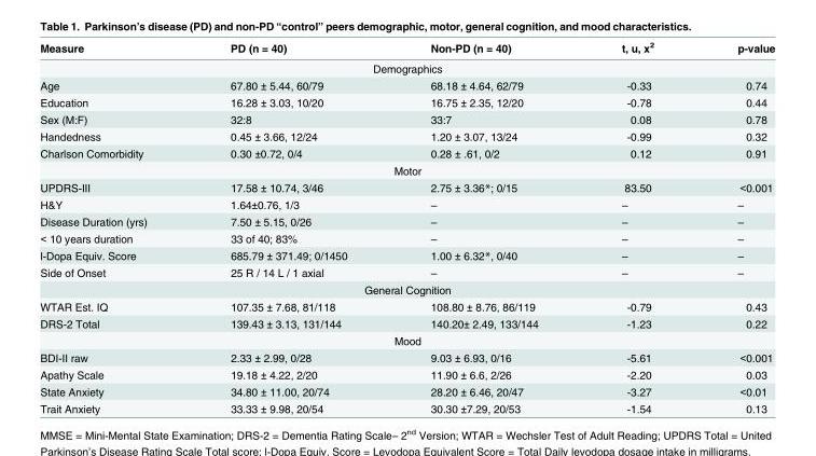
<table><thead><tr><td>Measure</td><td>PD (n = 40)</td><td>Non-PD (n = 40)</td><td>t, u, x<sup>2</sup></td><td>p-value</td></tr></thead><tbody><tr><td colspan="5">Demographics</td></tr><tr><td>Age</td><td>67.80 ± 5.44, 60/79</td><td>68.18 ± 4.64, 62/79</td><td>-0.33</td><td>0.74</td></tr><tr><td>Education</td><td>16.28 ± 3.03, 10/20</td><td>16.75 ± 2.35, 12/20</td><td>-0.78</td><td>0.44</td></tr><tr><td>Sex (M:F)</td><td>32:8</td><td>33:7</td><td>0.08</td><td>0.78</td></tr><tr><td>Handedness</td><td>0.45 ± 3.66, 12/24</td><td>1.20 ± 3.07, 13/24</td><td>-0.99</td><td>0.32</td></tr><tr><td>Charlson Comorbidity</td><td>0.30 ±0.72, 0/4</td><td>0.28 ± .61, 0/2</td><td>0.12</td><td>0.91</td></tr><tr><td colspan="5">Motor</td></tr><tr><td>UPDRS-III</td><td>17.58 ± 10.74, 3/46</td><td>2.75 ± 3.36*; 0/15</td><td>83.50</td><td>&lt;0.001</td></tr><tr><td>H&amp;Y</td><td>1.64±0.76, 1/3</td><td>–</td><td>–</td><td>–</td></tr><tr><td>Disease Duration (yrs)</td><td>7.50 ± 5.15, 0/26</td><td>–</td><td>–</td><td>–</td></tr><tr><td>&lt; 10 years duration</td><td>33 of 40; 83%</td><td>–</td><td>–</td><td>–</td></tr><tr><td>l-Dopa Equiv. Score</td><td>685.79 ± 371.49; 0/1450</td><td>1.00 ± 6.32*, 0/40</td><td>–</td><td>–</td></tr><tr><td>Side of Onset</td><td>25 R / 14 L / 1 axial</td><td>–</td><td>–</td><td>–</td></tr><tr><td colspan="5">General Cognition</td></tr><tr><td>WTAR Est. IQ</td><td>107.35 ± 7.68, 81/118</td><td>108.80 ± 8.76, 86/119</td><td>-0.79</td><td>0.43</td></tr><tr><td>DRS-2 Total</td><td>139.43 ± 3.13, 131/144</td><td>140.20± 2.49, 133/144</td><td>-1.23</td><td>0.22</td></tr><tr><td colspan="5">Mood</td></tr><tr><td>BDI-II raw</td><td>2.33 ± 2.99, 0/28</td><td>9.03 ± 6.93, 0/16</td><td>-5.61</td><td>&lt;0.001</td></tr><tr><td>Apathy Scale</td><td>19.18 ± 4.22, 2/20</td><td>11.90 ± 6.6, 2/26</td><td>-2.20</td><td>0.03</td></tr><tr><td>State Anxiety</td><td>34.80 ± 11.00, 20/74</td><td>28.20 ± 6.46, 20/47</td><td>-3.27</td><td>&lt;0.01</td></tr><tr><td>Trait Anxiety</td><td>33.33 ± 9.98, 20/54</td><td>30.30 ±7.29, 20/53</td><td>-1.54</td><td>0.13</td></tr></tbody></table>